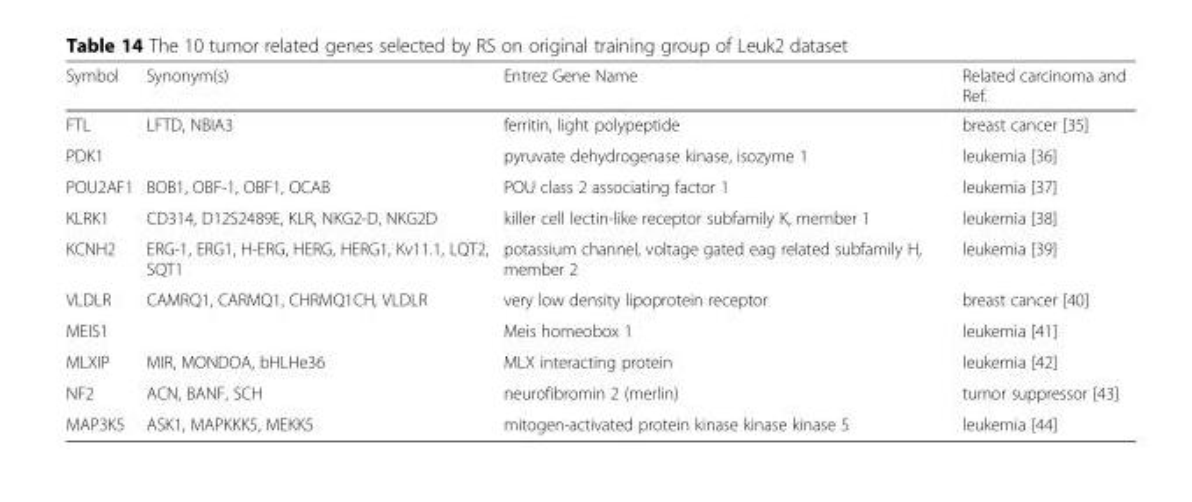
<table><thead><tr><td>Symbol</td><td>Synonym(s)</td><td>Entrez Gene Name</td><td>Related carcinoma and Ref.</td></tr></thead><tbody><tr><td>FTL</td><td>LFTD, NBIA3</td><td>ferritin, light polypeptide</td><td>breast cancer [35]</td></tr><tr><td>PDK1</td><td></td><td>pyruvate dehydrogenase kinase, isozyme 1</td><td>leukemia [36]</td></tr><tr><td>POU2AF1</td><td>BOB1, OBF-1, OBF1, OCAB</td><td>POU class 2 associating factor 1</td><td>leukemia [37]</td></tr><tr><td>KLRK1</td><td>CD314, D12S2489E, KLR, NKG2-D, NKG2D</td><td>killer cell lectin-like receptor subfamily K, member 1</td><td>leukemia [38]</td></tr><tr><td>KCNH2</td><td>ERG-1, ERG1, H-ERG, HERG, HERG1, Kv11.1, LQT2, SQT1</td><td>potassium channel, voltage gated eag related subfamily H, member 2</td><td>leukemia [39]</td></tr><tr><td>VLDLR</td><td>CAMRQ1, CARMQ1, CHRMQ1CH, VLDLR</td><td>very low density lipoprotein receptor</td><td>breast cancer [40]</td></tr><tr><td>MEIS1</td><td></td><td>Meis homeobox 1</td><td>leukemia [41]</td></tr><tr><td>MLXIP</td><td>MIR, MONDOA, bHLHe36</td><td>MLX interacting protein</td><td>leukemia [42]</td></tr><tr><td>NF2</td><td>ACN, BANF, SCH</td><td>neurofibromin 2 (merlin)</td><td>tumor suppressor [43]</td></tr><tr><td>MAP3K5</td><td>ASK1, MAPKKK5, MEKK5</td><td>mitogen-activated protein kinase kinase kinase 5</td><td>leukemia [44]</td></tr></tbody></table>